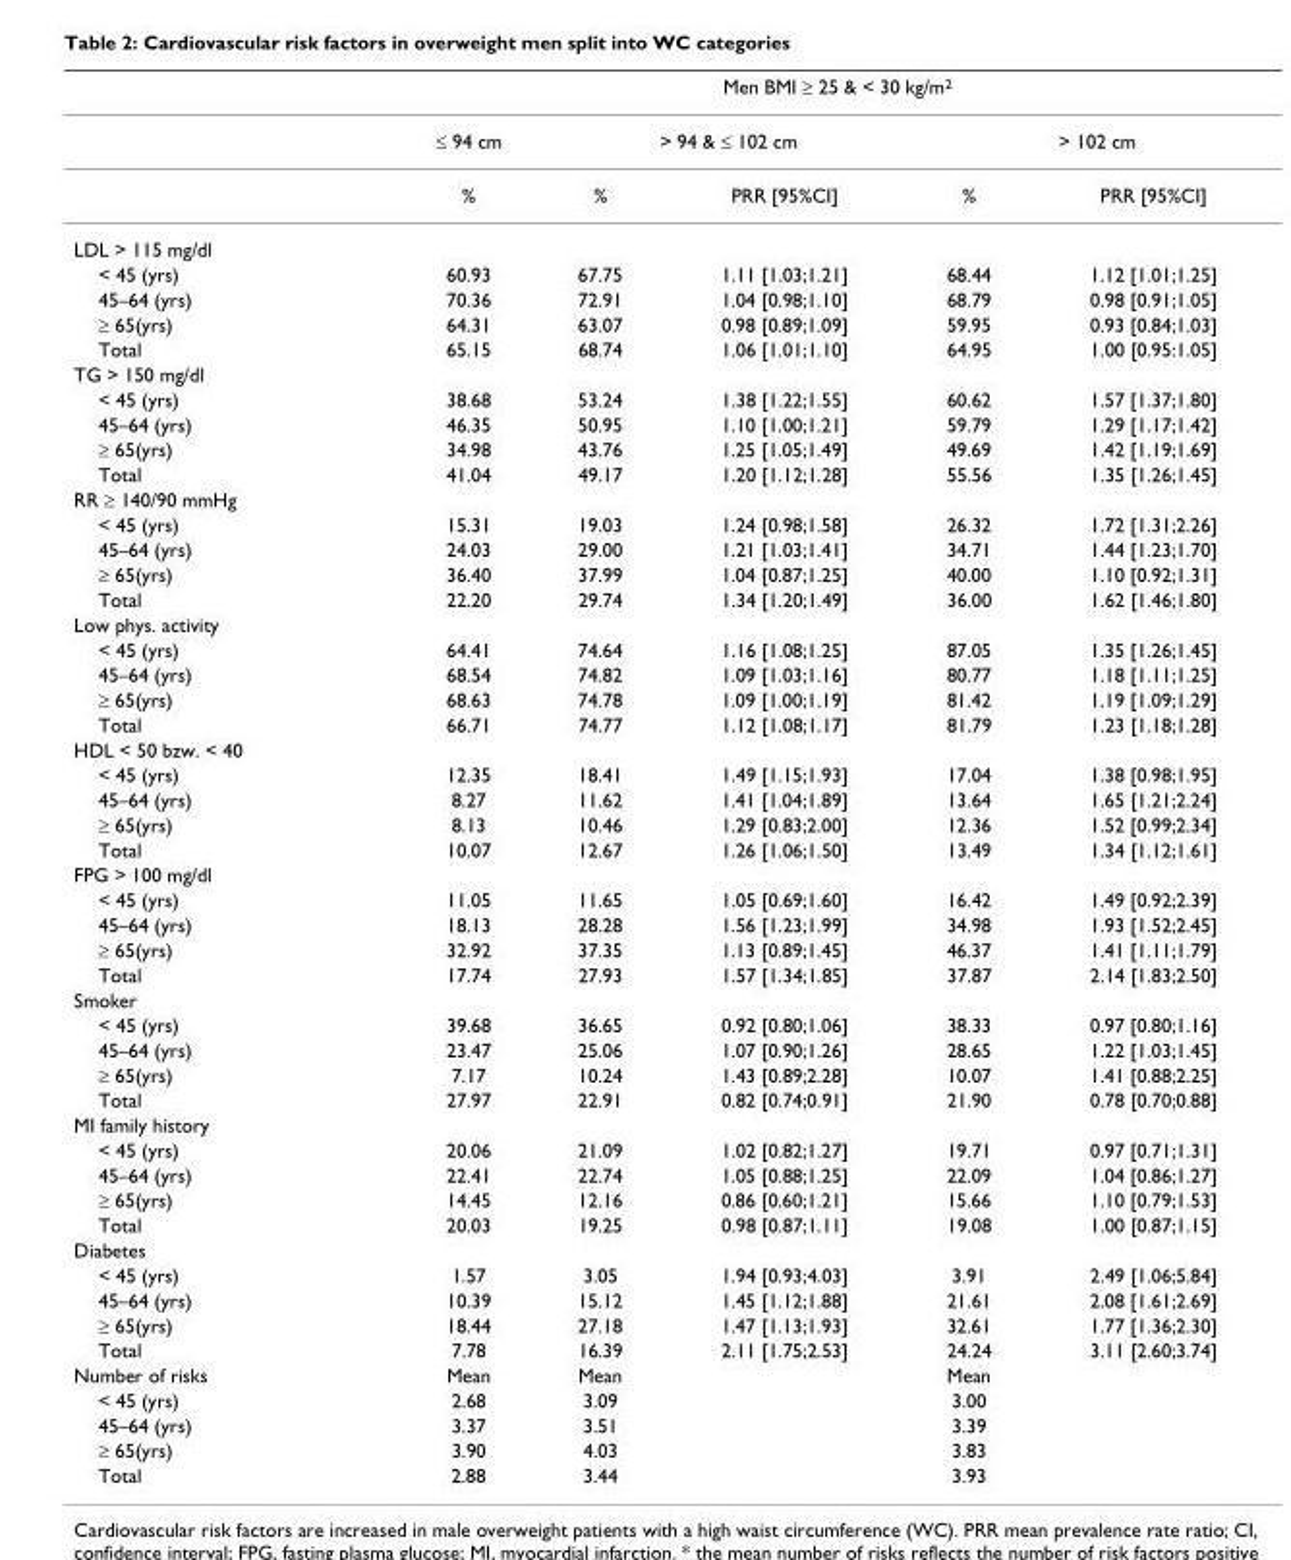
<table><thead><tr><td rowspan="3"></td><td colspan="5">Men BMI ≥ 25 &amp; &lt; 30 kg/m2</td></tr><tr><td rowspan="2">≤ 94 cm %</td><td colspan="2">&gt; 94 &amp; ≤ 102 cm</td><td colspan="2">&gt; 102 cm</td></tr><tr><td>%</td><td>PRR [95%CI]</td><td>%</td><td>PRR [95%CI]</td></tr></thead><tbody><tr><td colspan="6">LDL &gt; 115 mg/dl</td></tr><tr><td>&lt; 45 (yrs)</td><td>60.93</td><td>67.75</td><td>1.11 [1.03;1.21]</td><td>68.44</td><td>1.12 [1.01;1.25]</td></tr><tr><td>45–64 (yrs)</td><td>70.36</td><td>72.91</td><td>1.04 [0.98;1.10]</td><td>68.79</td><td>0.98 [0.91;1.05]</td></tr><tr><td>≥ 65(yrs)</td><td>64.31</td><td>63.07</td><td>0.98 [0.89;1.09]</td><td>59.95</td><td>0.93 [0.84;1.03]</td></tr><tr><td>Total</td><td>65.15</td><td>68.74</td><td>1.06 [1.01;1.10]</td><td>64.95</td><td>1.00 [0.95:1.05]</td></tr><tr><td colspan="6">TG &gt; 150 mg/dl</td></tr><tr><td>&lt; 45 (yrs)</td><td>38.68</td><td>53.24</td><td>1.38 [1.22;1.55]</td><td>60.62</td><td>1.57 [1.37;1.80]</td></tr><tr><td>45–64 (yrs)</td><td>46.35</td><td>50.95</td><td>1.10 [1.00;1.21]</td><td>59.79</td><td>1.29 [1.17;1.42]</td></tr><tr><td>≥ 65(yrs)</td><td>34.98</td><td>43.76</td><td>1.25 [1.05;1.49]</td><td>49.69</td><td>1.42 [1.19;1.69]</td></tr><tr><td>Total</td><td>41.04</td><td>49.17</td><td>1.20 [1.12;1.28]</td><td>55.56</td><td>1.35 [1.26;1.45]</td></tr><tr><td colspan="6">RR ≥ 140/90 mmHg</td></tr><tr><td>&lt; 45 (yrs)</td><td>15.31</td><td>19.03</td><td>1.24 [0.98;1.58]</td><td>26.32</td><td>1.72 [1.31;2.26]</td></tr><tr><td>45–64 (yrs)</td><td>24.03</td><td>29.00</td><td>1.21 [1.03;1.41]</td><td>34.71</td><td>1.44 [1.23;1.70]</td></tr><tr><td>≥ 65(yrs)</td><td>36.40</td><td>37.99</td><td>1.04 [0.87;1.25]</td><td>40.00</td><td>1.10 [0.92;1.31]</td></tr><tr><td>Total</td><td>22.20</td><td>29.74</td><td>1.34 [1.20;1.49]</td><td>36.00</td><td>1.62 [1.46;1.80]</td></tr><tr><td colspan="6">Low phys. activity</td></tr><tr><td>&lt; 45 (yrs)</td><td>64.41</td><td>74.64</td><td>1.16 [1.08;1.25]</td><td>87.05</td><td>1.35 [1.26;1.45]</td></tr><tr><td>45–64 (yrs)</td><td>68.54</td><td>74.82</td><td>1.09 [1.03;1.16]</td><td>80.77</td><td>1.18 [1.11;1.25]</td></tr><tr><td>≥ 65(yrs)</td><td>68.63</td><td>74.78</td><td>1.09 [1.00;1.19]</td><td>81.42</td><td>1.19 [1.09;1.29]</td></tr><tr><td>Total</td><td>66.71</td><td>74.77</td><td>1.12 [1.08;1.17]</td><td>81.79</td><td>1.23 [1.18;1.28]</td></tr><tr><td colspan="6">HDL &lt; 50 bzw. &lt; 40</td></tr><tr><td>&lt; 45 (yrs)</td><td>12.35</td><td>18.41</td><td>1.49 [1.15;1.93]</td><td>17.04</td><td>1.38 [0.98;1.95]</td></tr><tr><td>45–64 (yrs)</td><td>8.27</td><td>11.62</td><td>1.41 [1.04;1.89]</td><td>13.64</td><td>1.65 [1.21;2.24]</td></tr><tr><td>≥ 65(yrs)</td><td>8.13</td><td>10.46</td><td>1.29 [0.83;2.00]</td><td>12.36</td><td>1.52 [0.99;2.34]</td></tr><tr><td>Total</td><td>10.07</td><td>12.67</td><td>1.26 [1.06;1.50]</td><td>13.49</td><td>1.34 [1.12;1.61]</td></tr><tr><td colspan="6">FPG &gt; 100 mg/dl</td></tr><tr><td>&lt; 45 (yrs)</td><td>11.05</td><td>11.65</td><td>1.05 [0.69;1.60]</td><td>16.42</td><td>1.49 [0.92;2.39]</td></tr><tr><td>45–64 (yrs)</td><td>18.13</td><td>28.28</td><td>1.56 [1.23;1.99]</td><td>34.98</td><td>1.93 [1.52;2.45]</td></tr><tr><td>≥ 65(yrs)</td><td>32.92</td><td>37.35</td><td>1.13 [0.89;1.45]</td><td>46.37</td><td>1.41 [1.11;1.79]</td></tr><tr><td>Total</td><td>17.74</td><td>27.93</td><td>1.57 [1.34;1.85]</td><td>37.87</td><td>2.14 [1.83;2.50]</td></tr><tr><td colspan="6">Smoker</td></tr><tr><td>&lt; 45 (yrs)</td><td>39.68</td><td>36.65</td><td>0.92 [0.80;1.06]</td><td>38.33</td><td>0.97 [0.80;1.16]</td></tr><tr><td>45–64 (yrs)</td><td>23.47</td><td>25.06</td><td>1.07 [0.90;1.26]</td><td>28.65</td><td>1.22 [1.03;1.45]</td></tr><tr><td>≥ 65(yrs)</td><td>7.17</td><td>10.24</td><td>1.43 [0.89;2.28]</td><td>10.07</td><td>1.41 [0.88;2.25]</td></tr><tr><td>Total</td><td>27.97</td><td>22.91</td><td>0.82 [0.74;0.91]</td><td>21.90</td><td>0.78 [0.70;0.88]</td></tr><tr><td colspan="6">MI family history</td></tr><tr><td>&lt; 45 (yrs)</td><td>20.06</td><td>21.09</td><td>1.02 [0.82;1.27]</td><td>19.71</td><td>0.97 [0.71;1.31]</td></tr><tr><td>45–64 (yrs)</td><td>22.41</td><td>22.74</td><td>1.05 [0.88;1.25]</td><td>22.09</td><td>1.04 [0.86;1.27]</td></tr><tr><td>≥ 65(yrs)</td><td>14.45</td><td>12.16</td><td>0.86 [0.60;1.21]</td><td>15.66</td><td>1.10 [0.79;1.53]</td></tr><tr><td>Total</td><td>20.03</td><td>19.25</td><td>0.98 [0.87;1.11]</td><td>19.08</td><td>1.00 [0.87;1.15]</td></tr><tr><td colspan="6">Diabetes</td></tr><tr><td>&lt; 45 (yrs)</td><td>1.57</td><td>3.05</td><td>1.94 [0.93;4.03]</td><td>3.91</td><td>2.49 [1.06;5.84]</td></tr><tr><td>45–64 (yrs)</td><td>10.39</td><td>15.12</td><td>1.45 [1.12;1.88]</td><td>21.61</td><td>2.08 [1.61;2.69]</td></tr><tr><td>≥ 65(yrs)</td><td>18.44</td><td>27.18</td><td>1.47 [1.13;1.93]</td><td>32.61</td><td>1.77 [1.36;2.30]</td></tr><tr><td>Total</td><td>7.78</td><td>16.39</td><td>2.11 [1.75;2.53]</td><td>24.24</td><td>3.11 [2.60;3.74]</td></tr><tr><td>Number of risks</td><td>Mean</td><td>Mean</td><td></td><td>Mean</td><td></td></tr><tr><td>&lt; 45 (yrs)</td><td>2.68</td><td>3.09</td><td></td><td>3.00</td><td></td></tr><tr><td>45–64 (yrs)</td><td>3.37</td><td>3.51</td><td></td><td>3.39</td><td></td></tr><tr><td>≥ 65(yrs)</td><td>3.90</td><td>4.03</td><td></td><td>3.83</td><td></td></tr><tr><td>Total</td><td>2.88</td><td>3.44</td><td></td><td>3.93</td><td></td></tr></tbody></table>